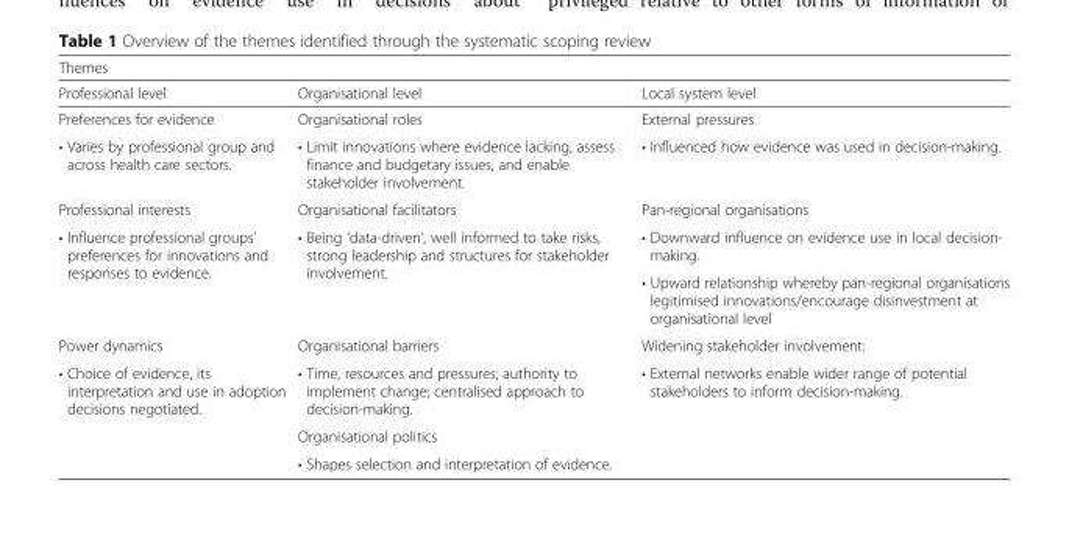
<table><thead><tr><td colspan="3">Themes</td></tr><tr><td>Professional level</td><td>Organisational level</td><td>Local system level</td></tr></thead><tbody><tr><td>Preferences for evidence</td><td>Organisational roles</td><td>External pressures</td></tr><tr><td>• Varies by professional group and across health care sectors.</td><td>• Limit innovations where evidence lacking, assess finance and budgetary issues, and enable stakeholder involvement.</td><td>• Influenced how evidence was used in decision-making.</td></tr><tr><td>Professional interests</td><td>Organisational facilitators</td><td>Pan-regional organisations</td></tr><tr><td rowspan="2">• Influence professional groups’ preferences for innovations and responses to evidence.</td><td rowspan="2">• Being ‘data-driven’, well informed to take risks, strong leadership and structures for stakeholder involvement.</td><td>• Downward influence on evidence use in local decision- making.</td></tr><tr><td>• Upward relationship whereby pan-regional organisations legitimised innovations/encourage disinvestment at organisational level</td></tr><tr><td>Power dynamics</td><td>Organisational barriers</td><td>Widening stakeholder involvement:</td></tr><tr><td rowspan="3">• Choice of evidence, its interpretation and use in adoption decisions negotiated.</td><td>• Time, resources and pressures; authority to implement change; centralised approach to decision-making.</td><td>• External networks enable wider range of potential stakeholders to inform decision-making.</td></tr><tr><td>Organisational politics</td><td rowspan="2"></td></tr><tr><td>• Shapes selection and interpretation of evidence.</td></tr></tbody></table>